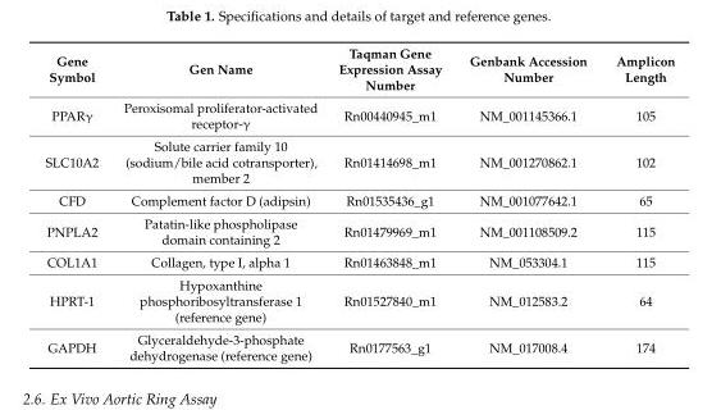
<table><thead><tr><td>Gene Symbol</td><td>Gen Name</td><td>Taqman Gene Expression Assay Number</td><td>Genbank Accession Number</td><td>Amplicon Length</td></tr></thead><tbody><tr><td>PPARγ</td><td>Peroxisomal proliferator-activated receptor-γ</td><td>Rn00440945_m1</td><td>NM_001145366.1</td><td>105</td></tr><tr><td>SLC10A2</td><td>Solute carrier family 10 (sodium/bile acid cotransporter), member 2</td><td>Rn01414698_m1</td><td>NM_001270862.1</td><td>102</td></tr><tr><td>CFD</td><td>Complement factor D (adipsin)</td><td>Rn01535436_g1</td><td>NM_001077642.1</td><td>65</td></tr><tr><td>PNPLA2</td><td>Patatin-like phospholipase domain containing 2</td><td>Rn01479969_m1</td><td>NM_001108509.2</td><td>115</td></tr><tr><td>COL1A1</td><td>Collagen, type I, alpha 1</td><td>Rn01463848_m1</td><td>NM_053304.1</td><td>115</td></tr><tr><td>HPRT-1</td><td>Hypoxanthine phosphoribosyltransferase 1 (reference gene)</td><td>Rn01527840_m1</td><td>NM_012583.2</td><td>64</td></tr><tr><td>GAPDH</td><td>Glyceraldehyde-3-phosphate dehydrogenase (reference gene)</td><td>Rn0177563_g1</td><td>NM_017008.4</td><td>174</td></tr></tbody></table>